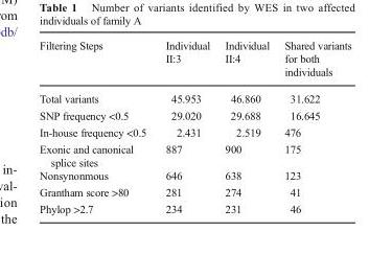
<table><thead><tr><td>Filtering Steps</td><td>Individual II:3</td><td>Individual II:4</td><td>Shared variants for both individuals</td></tr></thead><tbody><tr><td>Total variants</td><td>45.953</td><td>46.860</td><td>31.622</td></tr><tr><td>SNP frequency &lt;0.5</td><td>29.020</td><td>29.688</td><td>16.645</td></tr><tr><td>In-house frequency &lt;0.5</td><td>2.431</td><td>2.519</td><td>476</td></tr><tr><td>Exonic and canonical splice sites</td><td>887</td><td>900</td><td>175</td></tr><tr><td>Nonsynonmous</td><td>646</td><td>638</td><td>123</td></tr><tr><td>Grantham score &gt;80</td><td>281</td><td>274</td><td>41</td></tr><tr><td>Phylop &gt;2.7</td><td>234</td><td>231</td><td>46</td></tr></tbody></table>